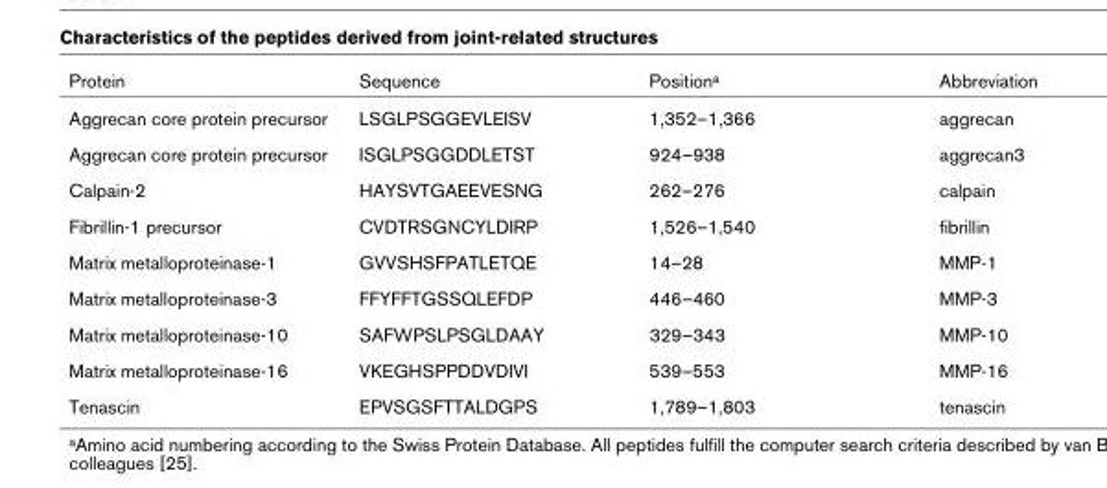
<table><thead><tr><td>Protein</td><td>Sequence</td><td>Positiona</td><td>Abbreviation</td></tr></thead><tbody><tr><td>Aggrecan core protein precursor</td><td>LSGLPSGGEVLEISV</td><td>1,352–1,366</td><td>aggrecan</td></tr><tr><td>Aggrecan core protein precursor</td><td>ISGLPSGGDDLETST</td><td>924–938</td><td>aggrecan3</td></tr><tr><td>Calpain-2</td><td>HAYSVTGAEEVESNG</td><td>262–276</td><td>calpain</td></tr><tr><td>Fibrillin-1 precursor</td><td>CVDTRSGNCYLDIRP</td><td>1,526–1,540</td><td>fibrillin</td></tr><tr><td>Matrix metalloproteinase-1</td><td>GVVSHSFPATLETQE</td><td>14–28</td><td>MMP-1</td></tr><tr><td>Matrix metalloproteinase-3</td><td>FFYFFTGSSQLEFDP</td><td>446–460</td><td>MMP-3</td></tr><tr><td>Matrix metalloproteinase-10</td><td>SAFWPSLPSGLDAAY</td><td>329–343</td><td>MMP-10</td></tr><tr><td>Matrix metalloproteinase-16</td><td>VKEGHSPPDDVDIVI</td><td>539–553</td><td>MMP-16</td></tr><tr><td>Tenascin</td><td>EPVSGSFTTALDGPS</td><td>1,789–1,803</td><td>tenascin</td></tr></tbody></table>